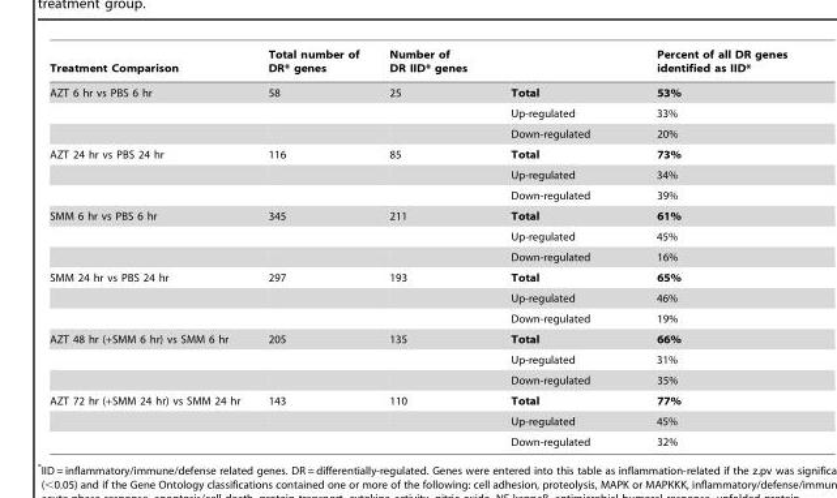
<table><thead><tr><td>Treatment Comparison</td><td>Total number of DR* genes</td><td>Number of DR IID* genes</td><td></td><td>Percent of all DR genes identified as IID*</td></tr></thead><tbody><tr><td rowspan="3">AZT 6 hr vs PBS 6 hr</td><td>58</td><td>25</td><td>Total</td><td>53%</td></tr><tr><td></td><td></td><td>Up-regulated</td><td>33%</td></tr><tr><td></td><td></td><td>Down-regulated</td><td>20%</td></tr><tr><td rowspan="3">AZT 24 hr vs PBS 24 hr</td><td>116</td><td>85</td><td>Total</td><td>73%</td></tr><tr><td></td><td></td><td>Up-regulated</td><td>34%</td></tr><tr><td></td><td></td><td>Down-regulated</td><td>39%</td></tr><tr><td rowspan="3">SMM 6 hr vs PBS 6 hr</td><td>345</td><td>211</td><td>Total</td><td>61%</td></tr><tr><td></td><td></td><td>Up-regulated</td><td>45%</td></tr><tr><td></td><td></td><td>Down-regulated</td><td>16%</td></tr><tr><td rowspan="3">SMM 24 hr vs PBS 24 hr</td><td>297</td><td>193</td><td>Total</td><td>65%</td></tr><tr><td></td><td></td><td>Up-regulated</td><td>46%</td></tr><tr><td></td><td></td><td>Down-regulated</td><td>19%</td></tr><tr><td rowspan="3">AZT 48 hr (+SMM 6 hr) vs SMM 6 hr</td><td>205</td><td>135</td><td>Total</td><td>66%</td></tr><tr><td></td><td></td><td>Up-regulated</td><td>31%</td></tr><tr><td></td><td></td><td>Down-regulated</td><td>35%</td></tr><tr><td rowspan="3">AZT 72 hr (+SMM 24 hr) vs SMM 24 hr</td><td>143</td><td>110</td><td>Total</td><td>77%</td></tr><tr><td></td><td></td><td>Up-regulated</td><td>45%</td></tr><tr><td></td><td></td><td>Down-regulated</td><td>32%</td></tr></tbody></table>